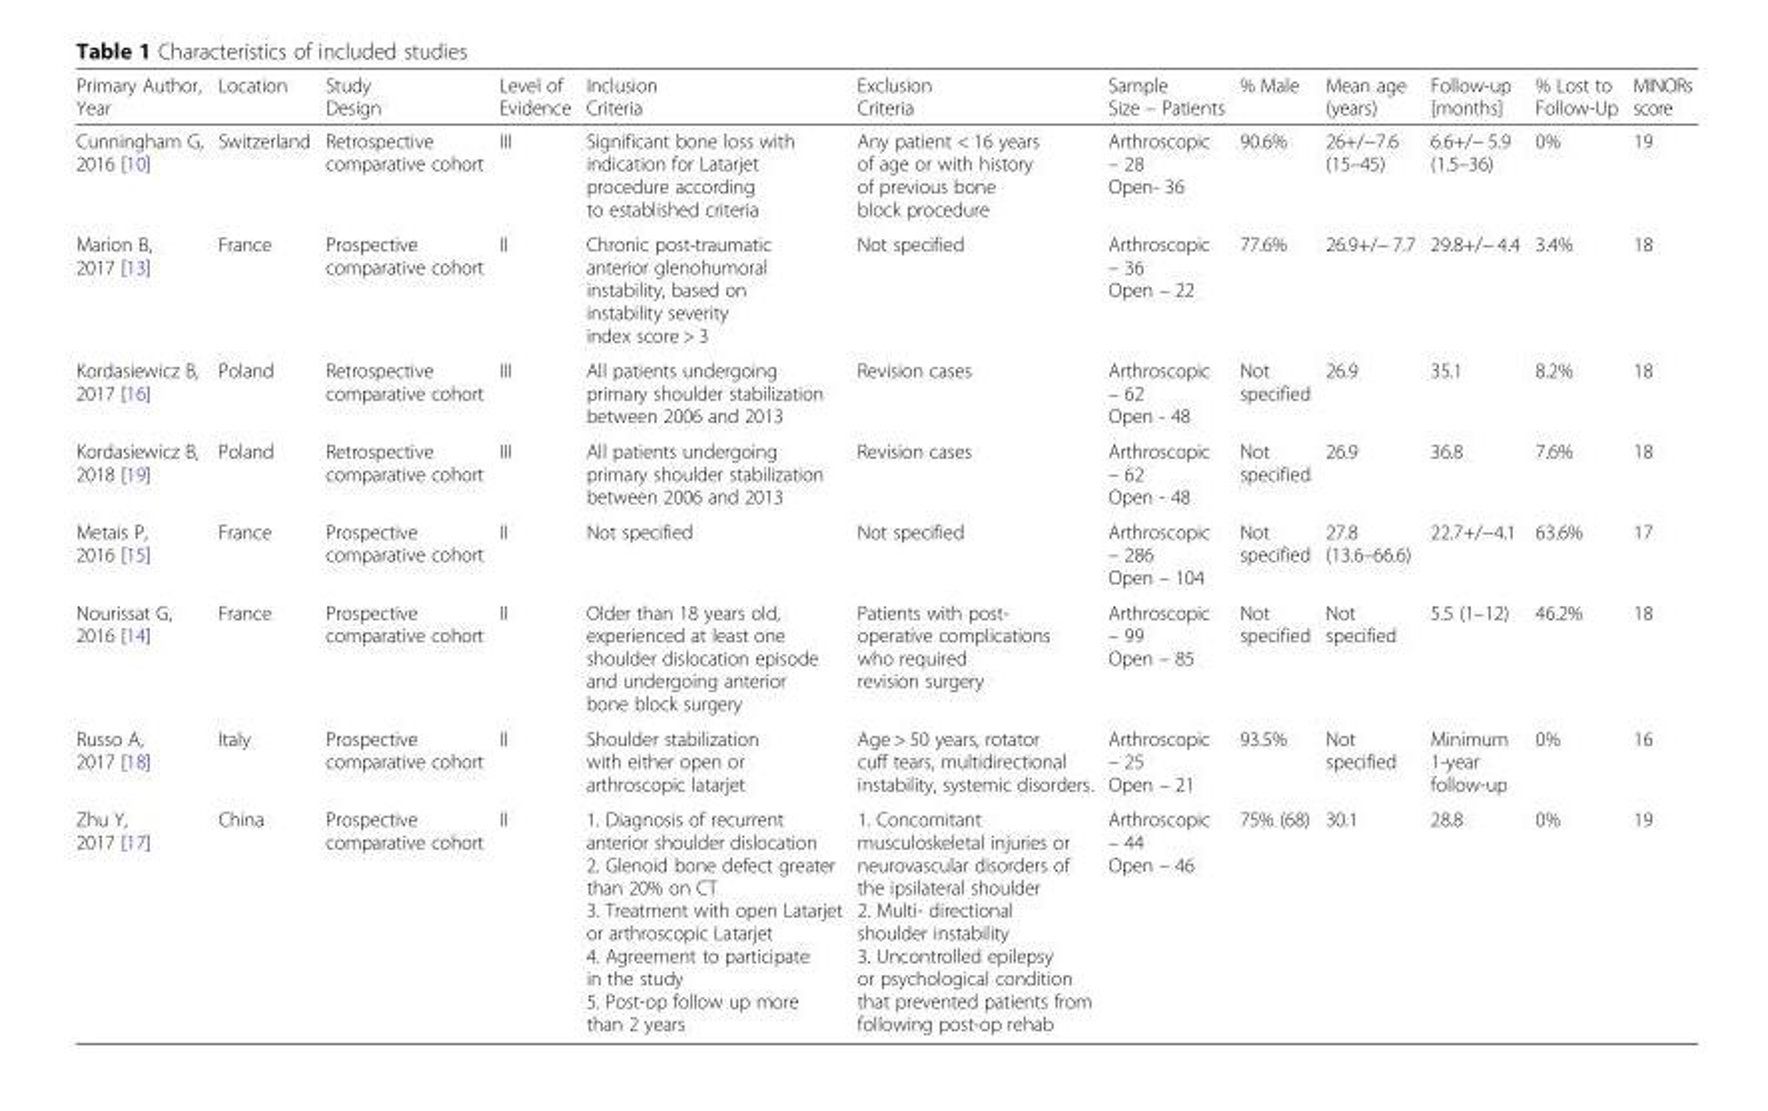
<table><thead><tr><td>Primary Author, Year</td><td>Location</td><td>Study Design</td><td>Level of Evidence</td><td>Inclusion Criteria</td><td>Exclusion Criteria</td><td>Sample Size – Patients</td><td>% Male</td><td>Mean age (years)</td><td>Follow-up [months]</td><td>% Lost to Follow-Up</td><td>MINORs score</td></tr></thead><tbody><tr><td>Cunningham G, 2016 [10]</td><td>Switzerland</td><td>Retrospective comparative cohort</td><td>III</td><td>Significant bone loss with indication for Latarjet procedure according to established criteria</td><td>Any patient &lt; 16 years of age or with history of previous bone block procedure</td><td>Arthroscopic – 28 Open- 36</td><td>90.6%</td><td>26+/−7.6 (15–45)</td><td>6.6+/− 5.9 (1.5–36)</td><td>0%</td><td>19</td></tr><tr><td>Marion B, 2017 [13]</td><td>France</td><td>Prospective comparative cohort</td><td>II</td><td>Chronic post-traumatic anterior glenohumoral instability, based on instability severity index score &gt; 3</td><td>Not specified</td><td>Arthroscopic – 36 Open – 22</td><td>77.6%</td><td>26.9+/− 7.7</td><td>29.8+/− 4.4</td><td>3.4%</td><td>18</td></tr><tr><td>Kordasiewicz B, 2017 [16]</td><td>Poland</td><td>Retrospective comparative cohort</td><td>III</td><td>All patients undergoing primary shoulder stabilization between 2006 and 2013</td><td>Revision cases</td><td>Arthroscopic – 62 Open - 48</td><td>Not specified</td><td>26.9</td><td>35.1</td><td>8.2%</td><td>18</td></tr><tr><td>Kordasiewicz B, 2018 [19]</td><td>Poland</td><td>Retrospective comparative cohort</td><td>III</td><td>All patients undergoing primary shoulder stabilization between 2006 and 2013</td><td>Revision cases</td><td>Arthroscopic – 62 Open - 48</td><td>Not specified</td><td>26.9</td><td>36.8</td><td>7.6%</td><td>18</td></tr><tr><td>Metais P, 2016 [15]</td><td>France</td><td>Prospective comparative cohort</td><td>II</td><td>Not specified</td><td>Not specified</td><td>Arthroscopic – 286 Open – 104</td><td>Not specified</td><td>27.8 (13.6–66.6)</td><td>22.7+/−4.1</td><td>63.6%</td><td>17</td></tr><tr><td>Nourissat G, 2016 [14]</td><td>France</td><td>Prospective comparative cohort</td><td>II</td><td>Older than 18 years old, experienced at least one shoulder dislocation episode and undergoing anterior bone block surgery</td><td>Patients with post- operative complications who required revision surgery</td><td>Arthroscopic – 99 Open – 85</td><td>Not specified</td><td>Not specified</td><td>5.5 (1–12)</td><td>46.2%</td><td>18</td></tr><tr><td>Russo A, 2017 [18]</td><td>Italy</td><td>Prospective comparative cohort</td><td>II</td><td>Shoulder stabilization with either open or arthroscopic latarjet</td><td>Age &gt; 50 years, rotator cuff tears, multidirectional instability, systemic disorders.</td><td>Arthroscopic – 25 Open – 21</td><td>93.5%</td><td>Not specified</td><td>Minimum 1-year follow-up</td><td>0%</td><td>16</td></tr><tr><td>Zhu Y, 2017 [17]</td><td>China</td><td>Prospective comparative cohort</td><td>II</td><td>1. Diagnosis of recurrent anterior shoulder dislocation 2. Glenoid bone defect greater than 20% on CT 3. Treatment with open Latarjet or arthroscopic Latarjet 4. Agreement to participate in the study 5. Post-op follow up more than 2 years</td><td>1. Concomitant musculoskeletal injuries or neurovascular disorders of the ipsilateral shoulder 2. Multi- directional shoulder instability 3. Uncontrolled epilepsy or psychological condition that prevented patients from following post-op rehab</td><td>Arthroscopic – 44 Open – 46</td><td>75% (68)</td><td>30.1</td><td>28.8</td><td>0%</td><td>19</td></tr></tbody></table>